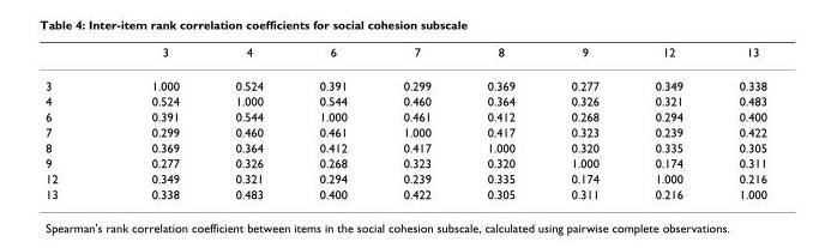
<table><thead><tr><td></td><td>3</td><td>4</td><td>6</td><td>7</td><td>8</td><td>9</td><td>12</td><td>13</td></tr></thead><tbody><tr><td>3</td><td>1.000</td><td>0.524</td><td>0.391</td><td>0.299</td><td>0.369</td><td>0.277</td><td>0.349</td><td>0.338</td></tr><tr><td>4</td><td>0.524</td><td>1.000</td><td>0.544</td><td>0.460</td><td>0.364</td><td>0.326</td><td>0.321</td><td>0.483</td></tr><tr><td>6</td><td>0.391</td><td>0.544</td><td>1.000</td><td>0.461</td><td>0.412</td><td>0.268</td><td>0.294</td><td>0.400</td></tr><tr><td>7</td><td>0.299</td><td>0.460</td><td>0.461</td><td>1.000</td><td>0.417</td><td>0.323</td><td>0.239</td><td>0.422</td></tr><tr><td>8</td><td>0.369</td><td>0.364</td><td>0.412</td><td>0.417</td><td>1.000</td><td>0.320</td><td>0.335</td><td>0.305</td></tr><tr><td>9</td><td>0.277</td><td>0.326</td><td>0.268</td><td>0.323</td><td>0.320</td><td>1.000</td><td>0.174</td><td>0.311</td></tr><tr><td>12</td><td>0.349</td><td>0.321</td><td>0.294</td><td>0.239</td><td>0.335</td><td>0.174</td><td>1.000</td><td>0.216</td></tr><tr><td>13</td><td>0.338</td><td>0.483</td><td>0.400</td><td>0.422</td><td>0.305</td><td>0.311</td><td>0.216</td><td>1.000</td></tr></tbody></table>